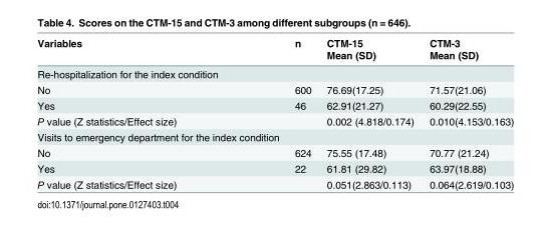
<table><thead><tr><td rowspan="2">Variables</td><td rowspan="2">n</td><td rowspan="2">CTM-15 Mean (SD)</td><td rowspan="2">CTM-3 Mean (SD)</td></tr><tr></tr></thead><tbody><tr><td colspan="4">Re-hospitalization for the index condition</td></tr><tr><td>No</td><td>600</td><td>76.69(17.25)</td><td>71.57(21.06)</td></tr><tr><td>Yes</td><td>46</td><td>62.91(21.27)</td><td>60.29(22.55)</td></tr><tr><td>P value (Z statistics/Effect size)</td><td></td><td>0.002 (4.818/0.174)</td><td>0.010(4.153/0.163)</td></tr><tr><td colspan="4">Visits to emergency department for the index condition</td></tr><tr><td>No</td><td>624</td><td>75.55 (17.48)</td><td>70.77 (21.24)</td></tr><tr><td>Yes</td><td>22</td><td>61.81 (29.82)</td><td>63.97(18.88)</td></tr><tr><td>P value (Z statistics/Effect size)</td><td></td><td>0.051(2.863/0.113)</td><td>0.064(2.619/0.103)</td></tr></tbody></table>